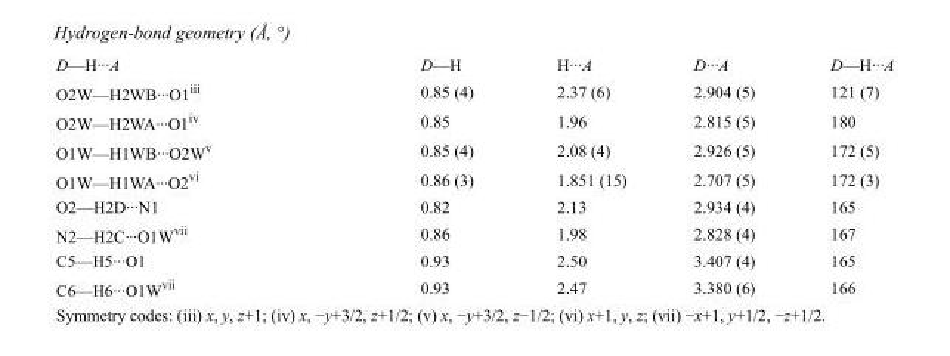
<table><tbody><tr><td>D—H···A</td><td>D—H</td><td>H···A</td><td>D···A</td><td>D—H···A</td></tr><tr><td>O2W—H2WB···O1<sup>iii</sup></td><td>0.85 (4)</td><td>2.37 (6)</td><td>2.904 (5)</td><td>121 (7)</td></tr><tr><td>O2W—H2WA···O1<sup>iv</sup></td><td>0.85</td><td>1.96</td><td>2.815 (5)</td><td>180</td></tr><tr><td>O1W—H1WB···O2W<sup>v</sup></td><td>0.85 (4)</td><td>2.08 (4)</td><td>2.926 (5)</td><td>172 (5)</td></tr><tr><td>O1W—H1WA···O2<sup>vi</sup></td><td>0.86 (3)</td><td>1.851 (15)</td><td>2.707 (5)</td><td>172 (3)</td></tr><tr><td>O2—H2D···N1</td><td>0.82</td><td>2.13</td><td>2.934 (4)</td><td>165</td></tr><tr><td>N2—H2C···O1W<sup>vii</sup></td><td>0.86</td><td>1.98</td><td>2.828 (4)</td><td>167</td></tr><tr><td>C5—H5···O1</td><td>0.93</td><td>2.50</td><td>3.407 (4)</td><td>165</td></tr><tr><td>C6—H6···O1W<sup>vii</sup></td><td>0.93</td><td>2.47</td><td>3.380 (6)</td><td>166</td></tr></tbody></table>